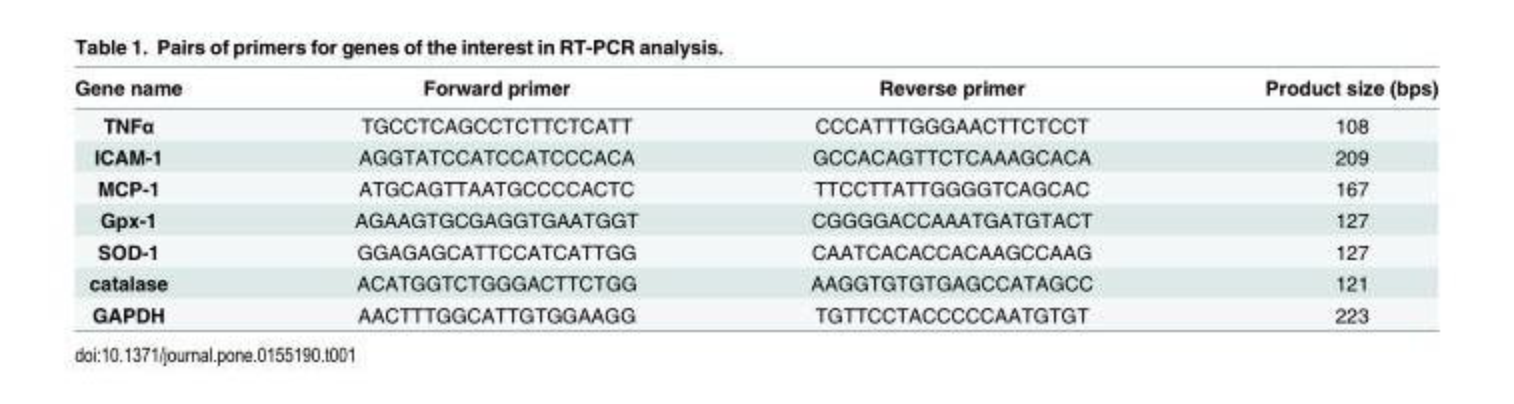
<table><thead><tr><td>Gene name</td><td>Forward primer</td><td>Reverse primer</td><td>Product size (bps)</td></tr></thead><tbody><tr><td>TNFα</td><td>TGCCTCAGCCTCTTCTCATT</td><td>CCCATTTGGGAACTTCTCCT</td><td>108</td></tr><tr><td>ICAM-1</td><td>AGGTATCCATCCATCCCACA</td><td>GCCACAGTTCTCAAAGCACA</td><td>209</td></tr><tr><td>MCP-1</td><td>ATGCAGTTAATGCCCCACTC</td><td>TTCCTTATTGGGGTCAGCAC</td><td>167</td></tr><tr><td>Gpx-1</td><td>AGAAGTGCGAGGTGAATGGT</td><td>CGGGGACCAAATGATGTACT</td><td>127</td></tr><tr><td>SOD-1</td><td>GGAGAGCATTCCATCATTGG</td><td>CAATCACACCACAAGCCAAG</td><td>127</td></tr><tr><td>catalase</td><td>ACATGGTCTGGGACTTCTGG</td><td>AAGGTGTGTGAGCCATAGCC</td><td>121</td></tr><tr><td>GAPDH</td><td>AACTTTGGCATTGTGGAAGG</td><td>TGTTCCTACCCCCAATGTGT</td><td>223</td></tr></tbody></table>